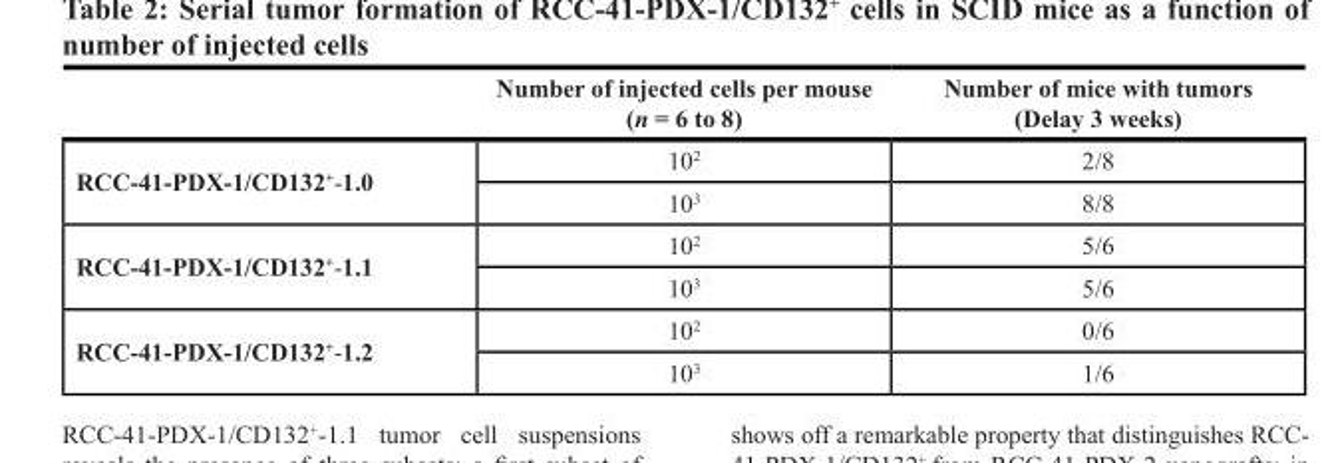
<table><thead><tr><td></td><td>Number of injected cells per mouse (n = 6 to 8)</td><td>Number of mice with tumors (Delay 3 weeks)</td></tr></thead><tbody><tr><td rowspan="2">RCC-41-PDX-1/CD132<sup>+</sup>-1.0</td><td>10<sup>2</sup></td><td>2/8</td></tr><tr><td>10<sup>3</sup></td><td>8/8</td></tr><tr><td rowspan="2">RCC-41-PDX-1/CD132<sup>+</sup>-1.1</td><td>10<sup>2</sup></td><td>5/6</td></tr><tr><td>10<sup>3</sup></td><td>5/6</td></tr><tr><td rowspan="2">RCC-41-PDX-1/CD132<sup>+</sup>-1.2</td><td>10<sup>2</sup></td><td>0/6</td></tr><tr><td>10<sup>3</sup></td><td>1/6</td></tr></tbody></table>